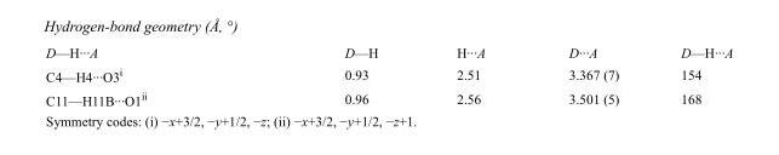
<table><tbody><tr><td>D—H···A</td><td>D—H</td><td>H···A</td><td>D···A</td><td>D—H···A</td></tr><tr><td>C4—H4···O3<sup>i</sup></td><td>0.93</td><td>2.51</td><td>3.367 (7)</td><td>154</td></tr><tr><td>C11—H11B···O1<sup>ii</sup></td><td>0.96</td><td>2.56</td><td>3.501 (5)</td><td>168</td></tr></tbody></table>